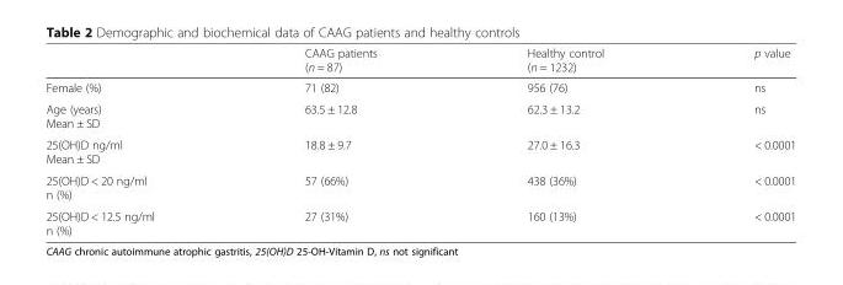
<table><thead><tr><td></td><td>CAAG patients (n = 87)</td><td>Healthy control (n = 1232)</td><td>p value</td></tr></thead><tbody><tr><td>Female (%)</td><td>71 (82)</td><td>956 (76)</td><td>ns</td></tr><tr><td>Age (years) Mean ± SD</td><td>63.5 ± 12.8</td><td>62.3 ± 13.2</td><td>ns</td></tr><tr><td>25(OH)D ng/ml Mean ± SD</td><td>18.8 ± 9.7</td><td>27.0 ± 16.3</td><td>&lt; 0.0001</td></tr><tr><td>25(OH)D &lt; 20 ng/ml n (%)</td><td>57 (66%)</td><td>438 (36%)</td><td>&lt; 0.0001</td></tr><tr><td>25(OH)D &lt; 12.5 ng/ml n (%)</td><td>27 (31%)</td><td>160 (13%)</td><td>&lt; 0.0001</td></tr></tbody></table>